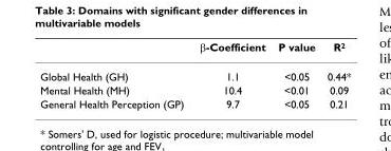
<table><thead><tr><td></td><td>β-Coefficient</td><td>P value</td><td>R<sup>2</sup></td></tr></thead><tbody><tr><td>Global Health (GH)</td><td>1.1</td><td>&lt;0.05</td><td>0.44*</td></tr><tr><td>Mental Health (MH)</td><td>10.4</td><td>&lt;0.01</td><td>0.09</td></tr><tr><td>General Health Perception (GP)</td><td>9.7</td><td>&lt;0.05</td><td>0.21</td></tr></tbody></table>